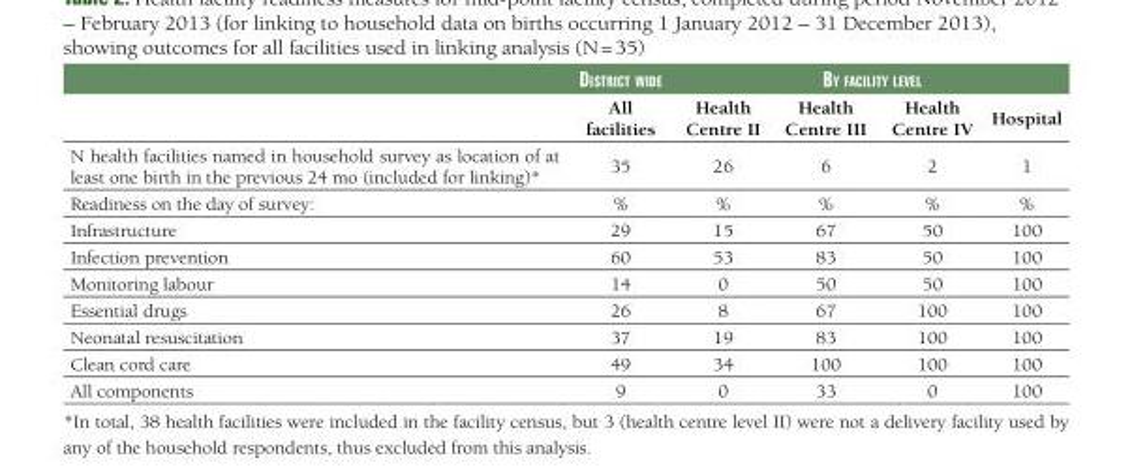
<table><thead><tr><td rowspan="2"></td><td rowspan="2">District wiDe All facilities</td><td colspan="4">By facility level</td></tr><tr><td>Health Centre II</td><td>Health Centre III</td><td>Health Centre IV</td><td>Hospital</td></tr></thead><tbody><tr><td>N health facilities named in household survey as location of at least one birth in the previous 24 mo (included for linking)*</td><td>35</td><td>26</td><td>6</td><td>2</td><td>1</td></tr><tr><td>Readiness on the day of survey:</td><td>%</td><td>%</td><td>%</td><td>%</td><td>%</td></tr><tr><td>Infrastructure</td><td>29</td><td>15</td><td>67</td><td>50</td><td>100</td></tr><tr><td>Infection prevention</td><td>60</td><td>53</td><td>83</td><td>50</td><td>100</td></tr><tr><td>Monitoring labour</td><td>14</td><td>0</td><td>50</td><td>50</td><td>100</td></tr><tr><td>Essential drugs</td><td>26</td><td>8</td><td>67</td><td>100</td><td>100</td></tr><tr><td>Neonatal resuscitation</td><td>37</td><td>19</td><td>83</td><td>100</td><td>100</td></tr><tr><td>Clean cord care</td><td>49</td><td>34</td><td>100</td><td>100</td><td>100</td></tr><tr><td>All components</td><td>9</td><td>0</td><td>33</td><td>0</td><td>100</td></tr></tbody></table>